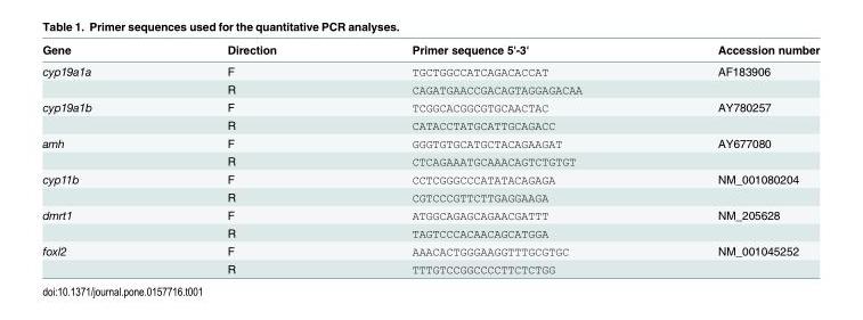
<table><thead><tr><td>Gene</td><td>Direction</td><td>Primer sequence 5&#x27;-3&#x27;</td><td>Accession number</td></tr></thead><tbody><tr><td rowspan="2">cyp19a1a</td><td>F</td><td>TGCTGGCCATCAGACACCAT</td><td>AF183906</td></tr><tr><td>R</td><td>CAGATGAACCGACAGTAGGAGACAA</td><td></td></tr><tr><td rowspan="2">cyp19a1b</td><td>F</td><td>TCGGCACGGCGTGCAACTAC</td><td>AY780257</td></tr><tr><td>R</td><td>CATACCTATGCATTGCAGACC</td><td></td></tr><tr><td rowspan="2">amh</td><td>F</td><td>GGGTGTGCATGCTACAGAAGAT</td><td>AY677080</td></tr><tr><td>R</td><td>CTCAGAAATGCAAACAGTCTGTGT</td><td></td></tr><tr><td rowspan="2">cyp11b</td><td>F</td><td>CCTCGGGCCCATATACAGAGA</td><td>NM_001080204</td></tr><tr><td>R</td><td>CGTCCCGTTCTTGAGGAAGA</td><td></td></tr><tr><td rowspan="2">dmrt1</td><td>F</td><td>ATGGCAGAGCAGAACGATTT</td><td>NM_205628</td></tr><tr><td>R</td><td>TAGTCCCACAACAGCATGGA</td><td></td></tr><tr><td rowspan="2">foxl2</td><td>F</td><td>AAACACTGGGAAGGTTTGCGTGC</td><td>NM_001045252</td></tr><tr><td>R</td><td>TTTGTCCGGCCCCTTCTCTGG</td><td></td></tr></tbody></table>